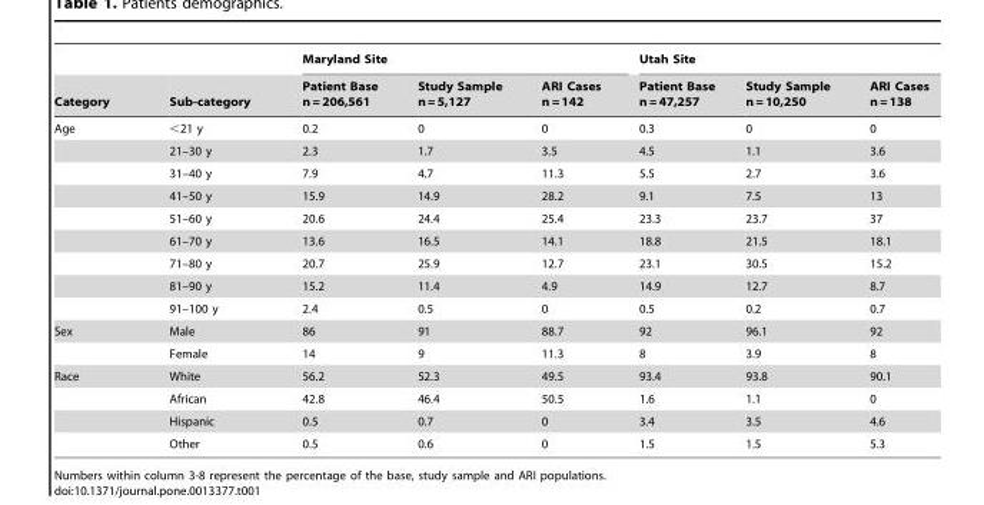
<table><thead><tr><td rowspan="2">Category</td><td rowspan="2">Sub-category</td><td colspan="3">Maryland Site</td><td colspan="3">Utah Site</td></tr><tr><td>Patient Base n = 206,561</td><td>Study Sample n = 5,127</td><td>ARI Cases n = 142</td><td>Patient Base n = 47,257</td><td>Study Sample n = 10,250</td><td>ARI Cases n = 138</td></tr></thead><tbody><tr><td rowspan="9">Age</td><td>&lt;21 y</td><td>0.2</td><td>0</td><td>0</td><td>0.3</td><td>0</td><td>0</td></tr><tr><td>21–30 y</td><td>2.3</td><td>1.7</td><td>3.5</td><td>4.5</td><td>1.1</td><td>3.6</td></tr><tr><td>31–40 y</td><td>7.9</td><td>4.7</td><td>11.3</td><td>5.5</td><td>2.7</td><td>3.6</td></tr><tr><td>41–50 y</td><td>15.9</td><td>14.9</td><td>28.2</td><td>9.1</td><td>7.5</td><td>13</td></tr><tr><td>51–60 y</td><td>20.6</td><td>24.4</td><td>25.4</td><td>23.3</td><td>23.7</td><td>37</td></tr><tr><td>61–70 y</td><td>13.6</td><td>16.5</td><td>14.1</td><td>18.8</td><td>21.5</td><td>18.1</td></tr><tr><td>71–80 y</td><td>20.7</td><td>25.9</td><td>12.7</td><td>23.1</td><td>30.5</td><td>15.2</td></tr><tr><td>81–90 y</td><td>15.2</td><td>11.4</td><td>4.9</td><td>14.9</td><td>12.7</td><td>8.7</td></tr><tr><td>91–100 y</td><td>2.4</td><td>0.5</td><td>0</td><td>0.5</td><td>0.2</td><td>0.7</td></tr><tr><td rowspan="2">Sex</td><td>Male</td><td>86</td><td>91</td><td>88.7</td><td>92</td><td>96.1</td><td>92</td></tr><tr><td>Female</td><td>14</td><td>9</td><td>11.3</td><td>8</td><td>3.9</td><td>8</td></tr><tr><td rowspan="4">Race</td><td>White</td><td>56.2</td><td>52.3</td><td>49.5</td><td>93.4</td><td>93.8</td><td>90.1</td></tr><tr><td>African</td><td>42.8</td><td>46.4</td><td>50.5</td><td>1.6</td><td>1.1</td><td>0</td></tr><tr><td>Hispanic</td><td>0.5</td><td>0.7</td><td>0</td><td>3.4</td><td>3.5</td><td>4.6</td></tr><tr><td>Other</td><td>0.5</td><td>0.6</td><td>0</td><td>1.5</td><td>1.5</td><td>5.3</td></tr></tbody></table>